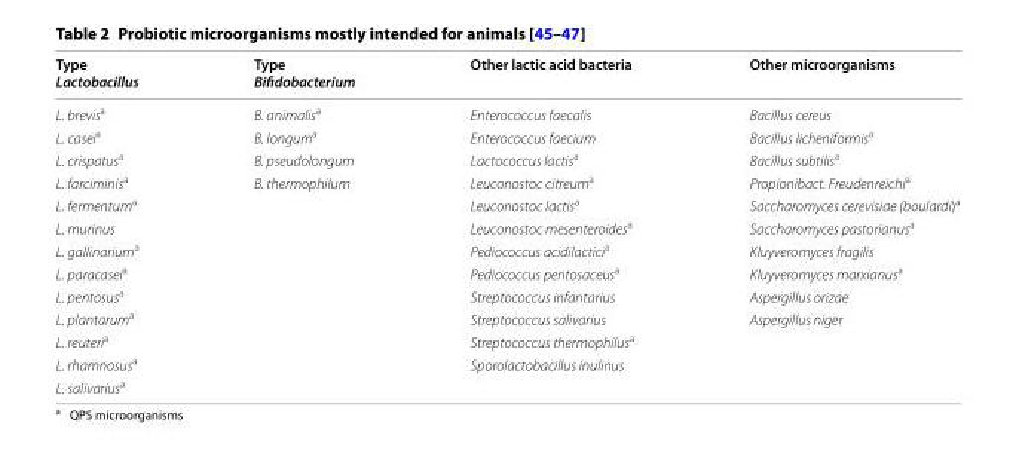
<table><thead><tr><td>Type Lactobacillus</td><td>Type Bifidobacterium</td><td>Other lactic acid bacteria</td><td>Other microorganisms</td></tr></thead><tbody><tr><td>L. brevis<sup>a</sup></td><td>B. animalis<sup>a</sup></td><td>Enterococcus faecalis</td><td>Bacillus cereus</td></tr><tr><td>L. casei<sup>a</sup></td><td>B. longum<sup>a</sup></td><td>Enterococcus faecium</td><td>Bacillus licheniformis<sup>a</sup></td></tr><tr><td>L. crispatus<sup>a</sup></td><td>B. pseudolongum</td><td>Lactococcus lactis<sup>a</sup></td><td>Bacillus subtilis<sup>a</sup></td></tr><tr><td>L. farciminis<sup>a</sup></td><td>B. thermophilum</td><td>Leuconostoc citreum<sup>a</sup></td><td>Propionibact. Freudenreichi<sup>a</sup></td></tr><tr><td>L. fermentum<sup>a</sup></td><td></td><td>Leuconostoc lactis<sup>a</sup></td><td>Saccharomyces cerevisiae (boulardi)<sup>a</sup></td></tr><tr><td>L. murinus</td><td></td><td>Leuconostoc mesenteroides<sup>a</sup></td><td>Saccharomyces pastorianus<sup>a</sup></td></tr><tr><td>L. gallinarium<sup>a</sup></td><td></td><td>Pediococcus acidilactici<sup>a</sup></td><td>Kluyveromyces fragilis</td></tr><tr><td>L. paracasei<sup>a</sup></td><td></td><td>Pediococcus pentosaceus<sup>a</sup></td><td>Kluyveromyces marxianus<sup>a</sup></td></tr><tr><td>L. pentosus<sup>a</sup></td><td></td><td>Streptococcus infantarius</td><td>Aspergillus orizae</td></tr><tr><td>L. plantarum<sup>a</sup></td><td></td><td>Streptococcus salivarius</td><td>Aspergillus niger</td></tr><tr><td>L. reuteri<sup>a</sup></td><td></td><td>Streptococcus thermophilus<sup>a</sup></td><td></td></tr><tr><td>L. rhamnosus<sup>a</sup></td><td></td><td>Sporolactobacillus inulinus</td><td></td></tr><tr><td>L. salivarius<sup>a</sup></td><td></td><td></td><td></td></tr></tbody></table>